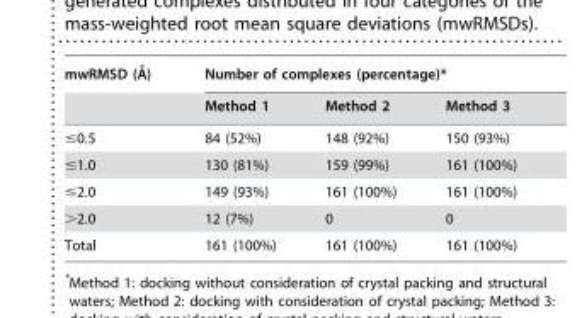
<table><thead><tr><td rowspan="2">mwRMSD (A˚)</td><td colspan="3">Number of complexes (percentage)*</td></tr><tr><td>Method 1</td><td>Method 2</td><td>Method 3</td></tr></thead><tbody><tr><td>≤0.5</td><td>84 (52%)</td><td>148 (92%)</td><td>150 (93%)</td></tr><tr><td>≤1.0</td><td>130 (81%)</td><td>159 (99%)</td><td>161 (100%)</td></tr><tr><td>≤2.0</td><td>149 (93%)</td><td>161 (100%)</td><td>161 (100%)</td></tr><tr><td>&gt;2.0</td><td>12 (7%)</td><td>0</td><td>0</td></tr><tr><td>Total</td><td>161 (100%)</td><td>161 (100%)</td><td>161 (100%)</td></tr></tbody></table>